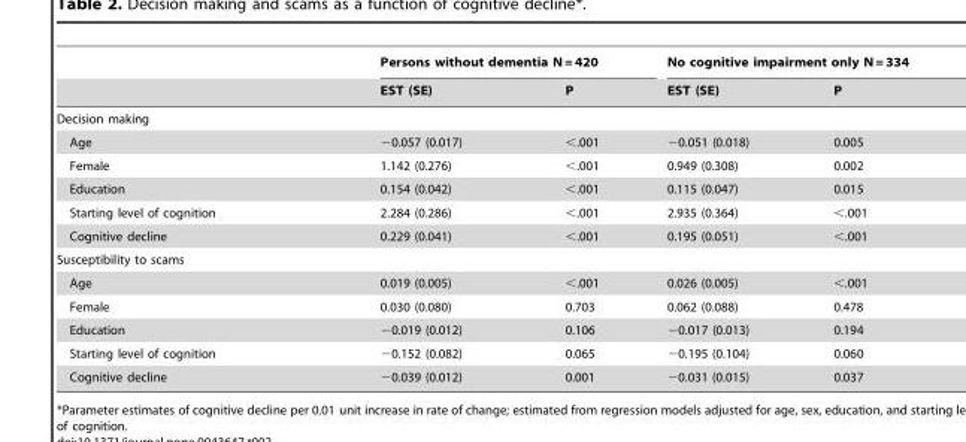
<table><thead><tr><td rowspan="2"></td><td colspan="2">Persons without dementia N = 420</td><td colspan="2">No cognitive impairment only N = 334</td></tr><tr><td>EST (SE)</td><td>P</td><td>EST (SE)</td><td>P</td></tr></thead><tbody><tr><td colspan="5">Decision making</td></tr><tr><td>Age</td><td>−0.057 (0.017)</td><td>&lt;.001</td><td>−0.051 (0.018)</td><td>0.005</td></tr><tr><td>Female</td><td>1.142 (0.276)</td><td>&lt;.001</td><td>0.949 (0.308)</td><td>0.002</td></tr><tr><td>Education</td><td>0.154 (0.042)</td><td>&lt;.001</td><td>0.115 (0.047)</td><td>0.015</td></tr><tr><td>Starting level of cognition</td><td>2.284 (0.286)</td><td>&lt;.001</td><td>2.935 (0.364)</td><td>&lt;.001</td></tr><tr><td>Cognitive decline</td><td>0.229 (0.041)</td><td>&lt;.001</td><td>0.195 (0.051)</td><td>&lt;.001</td></tr><tr><td colspan="5">Susceptibility to scams</td></tr><tr><td>Age</td><td>0.019 (0.005)</td><td>&lt;.001</td><td>0.026 (0.005)</td><td>&lt;.001</td></tr><tr><td>Female</td><td>0.030 (0.080)</td><td>0.703</td><td>0.062 (0.088)</td><td>0.478</td></tr><tr><td>Education</td><td>−0.019 (0.012)</td><td>0.106</td><td>−0.017 (0.013)</td><td>0.194</td></tr><tr><td>Starting level of cognition</td><td>−0.152 (0.082)</td><td>0.065</td><td>−0.195 (0.104)</td><td>0.060</td></tr><tr><td>Cognitive decline</td><td>−0.039 (0.012)</td><td>0.001</td><td>−0.031 (0.015)</td><td>0.037</td></tr></tbody></table>